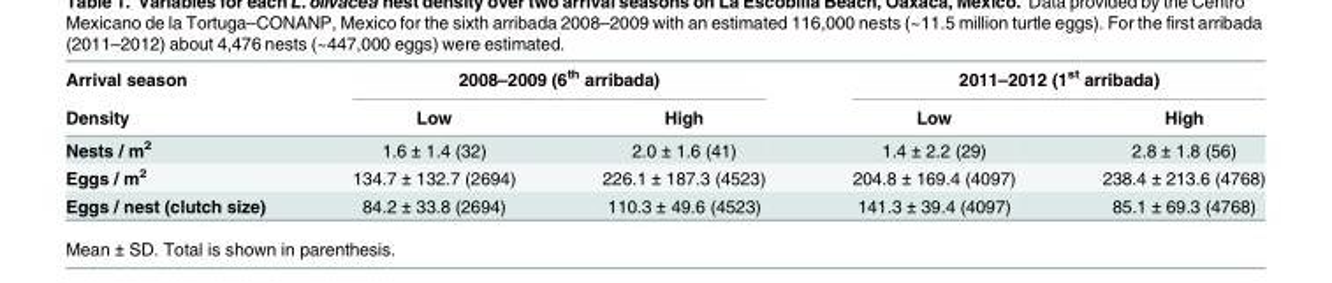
<table><thead><tr><td rowspan="2">Arrival season Density</td><td colspan="2">2008–2009 (6<sup>th</sup> arribada)</td><td colspan="2">2011–2012 (1<sup>st</sup> arribada)</td></tr><tr><td>Low</td><td>High</td><td>Low</td><td>High</td></tr></thead><tbody><tr><td>Nests / m<sup>2</sup></td><td>1.6 ± 1.4 (32)</td><td>2.0 ± 1.6 (41)</td><td>1.4 ± 2.2 (29)</td><td>2.8 ± 1.8 (56)</td></tr><tr><td>Eggs / m<sup>2</sup></td><td>134.7 ± 132.7 (2694)</td><td>226.1 ± 187.3 (4523)</td><td>204.8 ± 169.4 (4097)</td><td>238.4 ± 213.6 (4768)</td></tr><tr><td>Eggs / nest (clutch size)</td><td>84.2 ± 33.8 (2694)</td><td>110.3 ± 49.6 (4523)</td><td>141.3 ± 39.4 (4097)</td><td>85.1 ± 69.3 (4768)</td></tr></tbody></table>